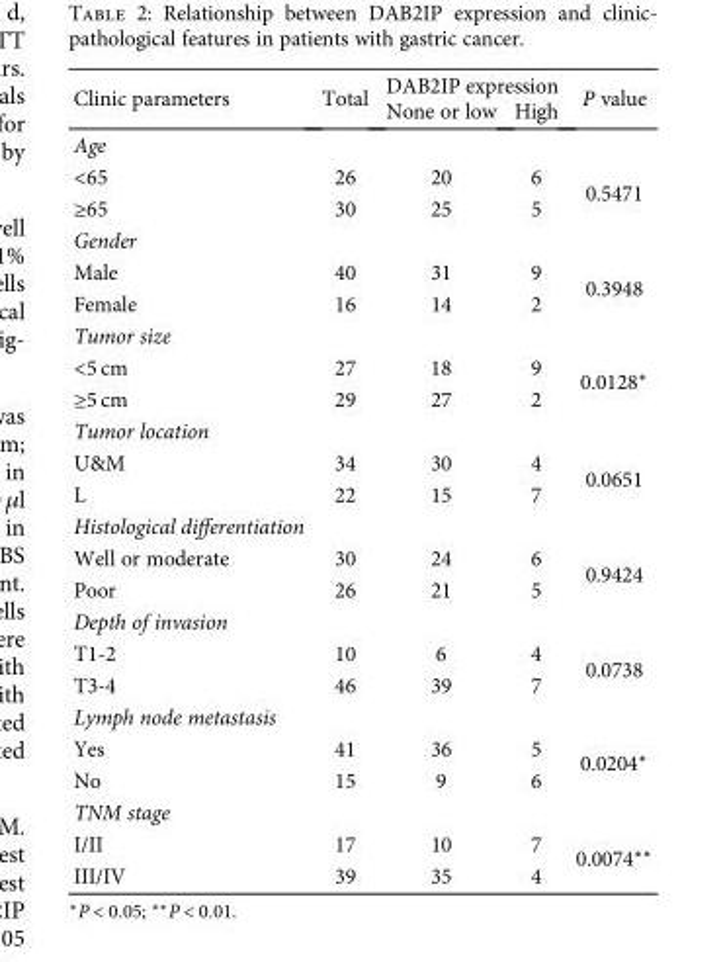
<table><thead><tr><td rowspan="2">Clinic parameters</td><td rowspan="2">Total</td><td colspan="2">DAB2IP expression</td><td rowspan="2">P value</td></tr><tr><td>None or low</td><td>High</td></tr></thead><tbody><tr><td colspan="5">Age</td></tr><tr><td>&lt;65</td><td>26</td><td>20</td><td>6</td><td rowspan="2">0.5471</td></tr><tr><td>≥65</td><td>30</td><td>25</td><td>5</td></tr><tr><td colspan="5">Gender</td></tr><tr><td>Male</td><td>40</td><td>31</td><td>9</td><td rowspan="2">0.3948</td></tr><tr><td>Female</td><td>16</td><td>14</td><td>2</td></tr><tr><td colspan="5">Tumor size</td></tr><tr><td>&lt;5 cm</td><td>27</td><td>18</td><td>9</td><td rowspan="2">0.0128∗</td></tr><tr><td>≥5 cm</td><td>29</td><td>27</td><td>2</td></tr><tr><td colspan="5">Tumor location</td></tr><tr><td>U&amp;M</td><td>34</td><td>30</td><td>4</td><td rowspan="2">0.0651</td></tr><tr><td>L</td><td>22</td><td>15</td><td>7</td></tr><tr><td colspan="5">Histological differentiation</td></tr><tr><td>Well or moderate</td><td>30</td><td>24</td><td>6</td><td rowspan="2">0.9424</td></tr><tr><td>Poor</td><td>26</td><td>21</td><td>5</td></tr><tr><td colspan="5">Depth of invasion</td></tr><tr><td>T1-2</td><td>10</td><td>6</td><td>4</td><td rowspan="2">0.0738</td></tr><tr><td>T3-4</td><td>46</td><td>39</td><td>7</td></tr><tr><td colspan="5">Lymph node metastasis</td></tr><tr><td>Yes</td><td>41</td><td>36</td><td>5</td><td rowspan="2">0.0204∗</td></tr><tr><td>No</td><td>15</td><td>9</td><td>6</td></tr><tr><td colspan="5">TNM stage</td></tr><tr><td>I/II</td><td>17</td><td>10</td><td>7</td><td rowspan="2">0.0074∗∗</td></tr><tr><td>III/IV</td><td>39</td><td>35</td><td>4</td></tr></tbody></table>